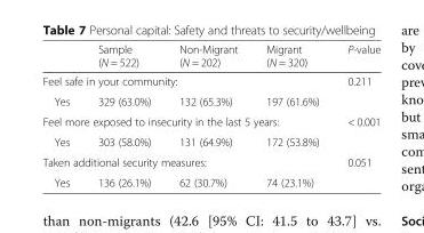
<table><thead><tr><td></td><td>Sample (N = 522)</td><td>Non-Migrant (N = 202)</td><td>Migrant (N = 320)</td><td>P-value</td></tr></thead><tbody><tr><td colspan="3">Feel safe in your community:</td><td></td><td>0.211</td></tr><tr><td>Yes</td><td>329 (63.0%)</td><td>132 (65.3%)</td><td>197 (61.6%)</td><td></td></tr><tr><td colspan="4">Feel more exposed to insecurity in the last 5 years:</td><td>&lt; 0.001</td></tr><tr><td>Yes</td><td>303 (58.0%)</td><td>131 (64.9%)</td><td>172 (53.8%)</td><td></td></tr><tr><td colspan="4">Taken additional security measures:</td><td>0.051</td></tr><tr><td>Yes</td><td>136 (26.1%)</td><td>62 (30.7%)</td><td>74 (23.1%)</td><td></td></tr></tbody></table>